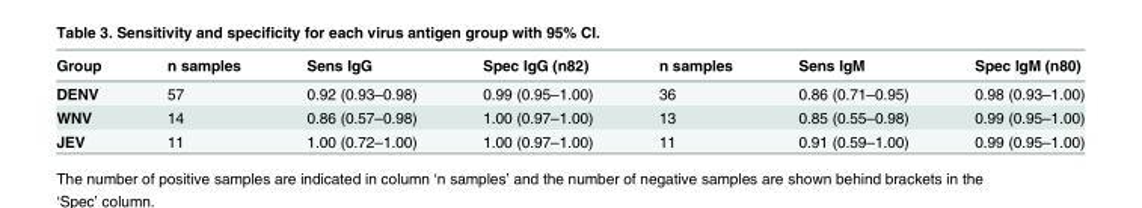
<table><thead><tr><td>Group</td><td>n samples</td><td>Sens IgG</td><td>Spec IgG (n82)</td><td>n samples</td><td>Sens IgM</td><td>Spec IgM (n80)</td></tr></thead><tbody><tr><td>DENV</td><td>57</td><td>0.92 (0.93–0.98)</td><td>0.99 (0.95–1.00)</td><td>36</td><td>0.86 (0.71–0.95)</td><td>0.98 (0.93–1.00)</td></tr><tr><td>WNV</td><td>14</td><td>0.86 (0.57–0.98)</td><td>1.00 (0.97–1.00)</td><td>13</td><td>0.85 (0.55–0.98)</td><td>0.99 (0.95–1.00)</td></tr><tr><td>JEV</td><td>11</td><td>1.00 (0.72–1.00)</td><td>1.00 (0.97–1.00)</td><td>11</td><td>0.91 (0.59–1.00)</td><td>0.99 (0.95–1.00)</td></tr></tbody></table>